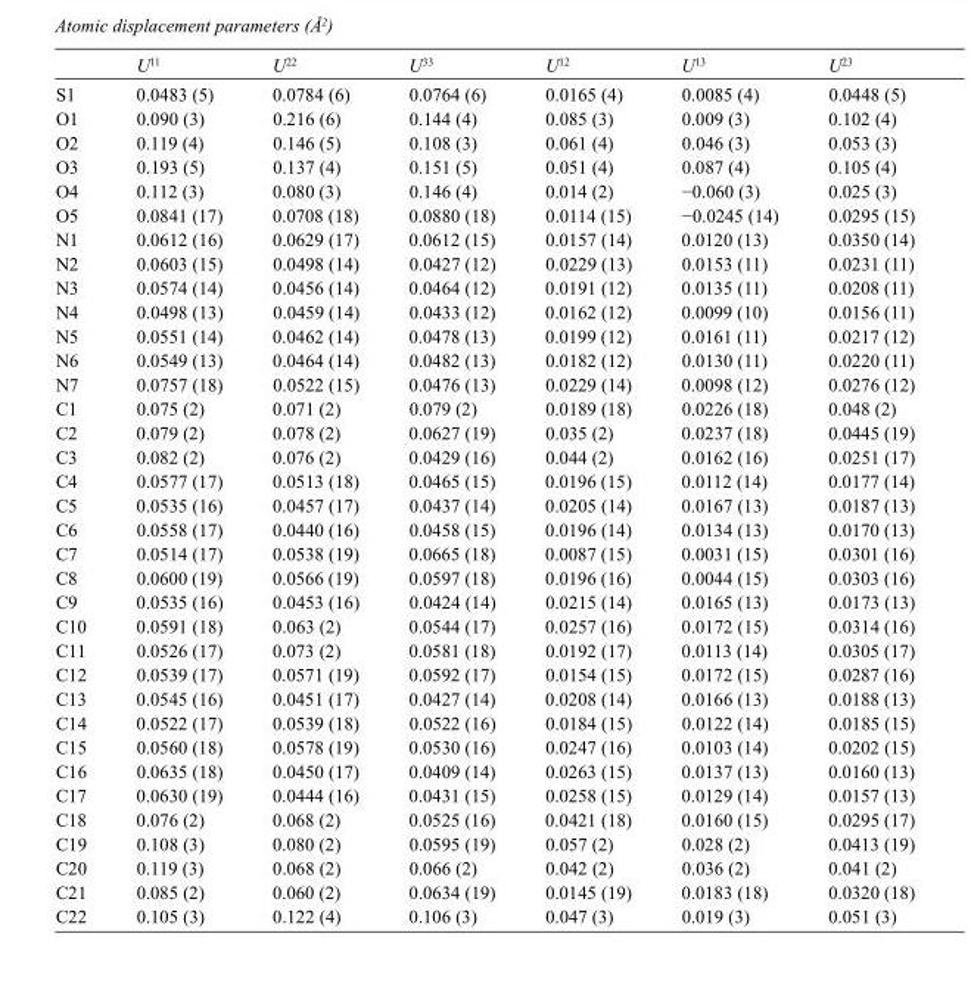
<table><thead><tr><td></td><td>U<sup>11</sup></td><td>U<sup>22</sup></td><td>U<sup>33</sup></td><td>U<sup>12</sup></td><td>U<sup>13</sup></td><td>U<sup>23</sup></td></tr></thead><tbody><tr><td>S1</td><td>0.0483 (5)</td><td>0.0784 (6)</td><td>0.0764 (6)</td><td>0.0165 (4)</td><td>0.0085 (4)</td><td>0.0448 (5)</td></tr><tr><td>O1</td><td>0.090 (3)</td><td>0.216 (6)</td><td>0.144 (4)</td><td>0.085 (3)</td><td>0.009 (3)</td><td>0.102 (4)</td></tr><tr><td>O2</td><td>0.119 (4)</td><td>0.146 (5)</td><td>0.108 (3)</td><td>0.061 (4)</td><td>0.046 (3)</td><td>0.053 (3)</td></tr><tr><td>O3</td><td>0.193 (5)</td><td>0.137 (4)</td><td>0.151 (5)</td><td>0.051 (4)</td><td>0.087 (4)</td><td>0.105 (4)</td></tr><tr><td>O4</td><td>0.112 (3)</td><td>0.080 (3)</td><td>0.146 (4)</td><td>0.014 (2)</td><td>−0.060 (3)</td><td>0.025 (3)</td></tr><tr><td>O5</td><td>0.0841 (17)</td><td>0.0708 (18)</td><td>0.0880 (18)</td><td>0.0114 (15)</td><td>−0.0245 (14)</td><td>0.0295 (15)</td></tr><tr><td>N1</td><td>0.0612 (16)</td><td>0.0629 (17)</td><td>0.0612 (15)</td><td>0.0157 (14)</td><td>0.0120 (13)</td><td>0.0350 (14)</td></tr><tr><td>N2</td><td>0.0603 (15)</td><td>0.0498 (14)</td><td>0.0427 (12)</td><td>0.0229 (13)</td><td>0.0153 (11)</td><td>0.0231 (11)</td></tr><tr><td>N3</td><td>0.0574 (14)</td><td>0.0456 (14)</td><td>0.0464 (12)</td><td>0.0191 (12)</td><td>0.0135 (11)</td><td>0.0208 (11)</td></tr><tr><td>N4</td><td>0.0498 (13)</td><td>0.0459 (14)</td><td>0.0433 (12)</td><td>0.0162 (12)</td><td>0.0099 (10)</td><td>0.0156 (11)</td></tr><tr><td>N5</td><td>0.0551 (14)</td><td>0.0462 (14)</td><td>0.0478 (13)</td><td>0.0199 (12)</td><td>0.0161 (11)</td><td>0.0217 (12)</td></tr><tr><td>N6</td><td>0.0549 (13)</td><td>0.0464 (14)</td><td>0.0482 (13)</td><td>0.0182 (12)</td><td>0.0130 (11)</td><td>0.0220 (11)</td></tr><tr><td>N7</td><td>0.0757 (18)</td><td>0.0522 (15)</td><td>0.0476 (13)</td><td>0.0229 (14)</td><td>0.0098 (12)</td><td>0.0276 (12)</td></tr><tr><td>C1</td><td>0.075 (2)</td><td>0.071 (2)</td><td>0.079 (2)</td><td>0.0189 (18)</td><td>0.0226 (18)</td><td>0.048 (2)</td></tr><tr><td>C2</td><td>0.079 (2)</td><td>0.078 (2)</td><td>0.0627 (19)</td><td>0.035 (2)</td><td>0.0237 (18)</td><td>0.0445 (19)</td></tr><tr><td>C3</td><td>0.082 (2)</td><td>0.076 (2)</td><td>0.0429 (16)</td><td>0.044 (2)</td><td>0.0162 (16)</td><td>0.0251 (17)</td></tr><tr><td>C4</td><td>0.0577 (17)</td><td>0.0513 (18)</td><td>0.0465 (15)</td><td>0.0196 (15)</td><td>0.0112 (14)</td><td>0.0177 (14)</td></tr><tr><td>C5</td><td>0.0535 (16)</td><td>0.0457 (17)</td><td>0.0437 (14)</td><td>0.0205 (14)</td><td>0.0167 (13)</td><td>0.0187 (13)</td></tr><tr><td>C6</td><td>0.0558 (17)</td><td>0.0440 (16)</td><td>0.0458 (15)</td><td>0.0196 (14)</td><td>0.0134 (13)</td><td>0.0170 (13)</td></tr><tr><td>C7</td><td>0.0514 (17)</td><td>0.0538 (19)</td><td>0.0665 (18)</td><td>0.0087 (15)</td><td>0.0031 (15)</td><td>0.0301 (16)</td></tr><tr><td>C8</td><td>0.0600 (19)</td><td>0.0566 (19)</td><td>0.0597 (18)</td><td>0.0196 (16)</td><td>0.0044 (15)</td><td>0.0303 (16)</td></tr><tr><td>C9</td><td>0.0535 (16)</td><td>0.0453 (16)</td><td>0.0424 (14)</td><td>0.0215 (14)</td><td>0.0165 (13)</td><td>0.0173 (13)</td></tr><tr><td>C10</td><td>0.0591 (18)</td><td>0.063 (2)</td><td>0.0544 (17)</td><td>0.0257 (16)</td><td>0.0172 (15)</td><td>0.0314 (16)</td></tr><tr><td>C11</td><td>0.0526 (17)</td><td>0.073 (2)</td><td>0.0581 (18)</td><td>0.0192 (17)</td><td>0.0113 (14)</td><td>0.0305 (17)</td></tr><tr><td>C12</td><td>0.0539 (17)</td><td>0.0571 (19)</td><td>0.0592 (17)</td><td>0.0154 (15)</td><td>0.0172 (15)</td><td>0.0287 (16)</td></tr><tr><td>C13</td><td>0.0545 (16)</td><td>0.0451 (17)</td><td>0.0427 (14)</td><td>0.0208 (14)</td><td>0.0166 (13)</td><td>0.0188 (13)</td></tr><tr><td>C14</td><td>0.0522 (17)</td><td>0.0539 (18)</td><td>0.0522 (16)</td><td>0.0184 (15)</td><td>0.0122 (14)</td><td>0.0185 (15)</td></tr><tr><td>C15</td><td>0.0560 (18)</td><td>0.0578 (19)</td><td>0.0530 (16)</td><td>0.0247 (16)</td><td>0.0103 (14)</td><td>0.0202 (15)</td></tr><tr><td>C16</td><td>0.0635 (18)</td><td>0.0450 (17)</td><td>0.0409 (14)</td><td>0.0263 (15)</td><td>0.0137 (13)</td><td>0.0160 (13)</td></tr><tr><td>C17</td><td>0.0630 (19)</td><td>0.0444 (16)</td><td>0.0431 (15)</td><td>0.0258 (15)</td><td>0.0129 (14)</td><td>0.0157 (13)</td></tr><tr><td>C18</td><td>0.076 (2)</td><td>0.068 (2)</td><td>0.0525 (16)</td><td>0.0421 (18)</td><td>0.0160 (15)</td><td>0.0295 (17)</td></tr><tr><td>C19</td><td>0.108 (3)</td><td>0.080 (2)</td><td>0.0595 (19)</td><td>0.057 (2)</td><td>0.028 (2)</td><td>0.0413 (19)</td></tr><tr><td>C20</td><td>0.119 (3)</td><td>0.068 (2)</td><td>0.066 (2)</td><td>0.042 (2)</td><td>0.036 (2)</td><td>0.041 (2)</td></tr><tr><td>C21</td><td>0.085 (2)</td><td>0.060 (2)</td><td>0.0634 (19)</td><td>0.0145 (19)</td><td>0.0183 (18)</td><td>0.0320 (18)</td></tr><tr><td>C22</td><td>0.105 (3)</td><td>0.122 (4)</td><td>0.106 (3)</td><td>0.047 (3)</td><td>0.019 (3)</td><td>0.051 (3)</td></tr></tbody></table>